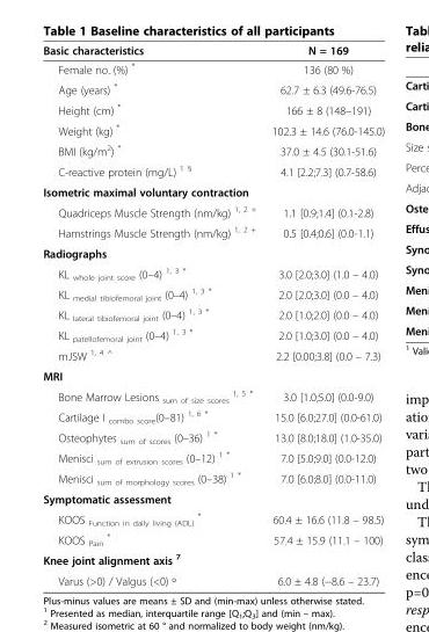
<table><thead><tr><td>Basic characteristics</td><td>N = 169</td></tr></thead><tbody><tr><td>Female no. (%) *</td><td>136 (80 %)</td></tr><tr><td>Age (years) *</td><td>62.7 ± 6.3 (49.6-76.5)</td></tr><tr><td>Height (cm) *</td><td>166 ± 8 (148–191)</td></tr><tr><td>Weight (kg) *</td><td>102.3 ± 14.6 (76.0-145.0)</td></tr><tr><td>BMI (kg/m<sup>2</sup>) *</td><td>37.0 ± 4.5 (30.1-51.6)</td></tr><tr><td>C-reactive protein (mg/L) <sup>1 §</sup></td><td>4.1 [2.2;7.3] (0.7-58.6)</td></tr><tr><td colspan="2">Isometric maximal voluntary contraction</td></tr><tr><td>Quadriceps Muscle Strength (nm/kg) <sup>1, 2 +</sup></td><td>1.1 [0.9;1.4] (0.1-2.8)</td></tr><tr><td>Hamstrings Muscle Strength (nm/kg) <sup>1, 2 +</sup></td><td>0.5 [0.4;0.6] (0.0-1.1)</td></tr><tr><td colspan="2">Radiographs</td></tr><tr><td>KL <sub>whole joint score</sub> (0–4) <sup>1, 3 *</sup></td><td>3.0 [2.0;3.0] (1.0 – 4.0)</td></tr><tr><td>KL <sub>medial tibiofemoral joint</sub> (0–4) <sup>1, 3 *</sup></td><td>2.0 [2.0;3.0] (0.0 – 4.0)</td></tr><tr><td>KL <sub>lateral tibiofemoral joint</sub> (0–4) <sup>1, 3 *</sup></td><td>2.0 [1.0;2.0] (0.0 – 4.0)</td></tr><tr><td>KL <sub>patellofemoral joint</sub> (0–4) <sup>1, 3 *</sup></td><td>2.0 [1.0;3.0] (0.0 – 4.0)</td></tr><tr><td>mJSW 1, 4 ^</td><td>2.2 [0.00;3.8] (0.0 – 7.3)</td></tr><tr><td colspan="2">MRI</td></tr><tr><td>Bone Marrow Lesions <sub>sum of size scores</sub> <sup>1, 5 *</sup></td><td>3.0 [1.0;5.0] (0.0-9.0)</td></tr><tr><td>Cartilage I <sub>combo score</sub>(0–81) <sup>1, 6 *</sup></td><td>15.0 [6.0;27.0] (0.0-61.0)</td></tr><tr><td>Osteophytes <sub>sum of scores</sub> (0–36) <sup>1 *</sup></td><td>13.0 [8.0;18.0] (1.0-35.0)</td></tr><tr><td>Menisci <sub>sum of extrusion scores</sub> (0–12) <sup>1 *</sup></td><td>7.0 [5.0;9.0] (0.0-12.0)</td></tr><tr><td>Menisci <sub>sum of morphology scores</sub> (0–38) <sup>1 *</sup></td><td>7.0 [6.0;8.0] (0.0-11.0)</td></tr><tr><td colspan="2">Symptomatic assessment</td></tr><tr><td>KOOS <sub>Function in daily living (ADL)</sub> *</td><td>60.4 ± 16.6 (11.8 – 98.5)</td></tr><tr><td>KOOS <sub>Pain</sub> *</td><td>57.4 ± 15.9 (11.1 – 100)</td></tr><tr><td colspan="2">Knee joint alignment axis <sup>7</sup></td></tr><tr><td>Varus (&gt;0) / Valgus (&lt;0) º</td><td>6.0 ± 4.8 (−8.6 – 23.7)</td></tr></tbody></table>